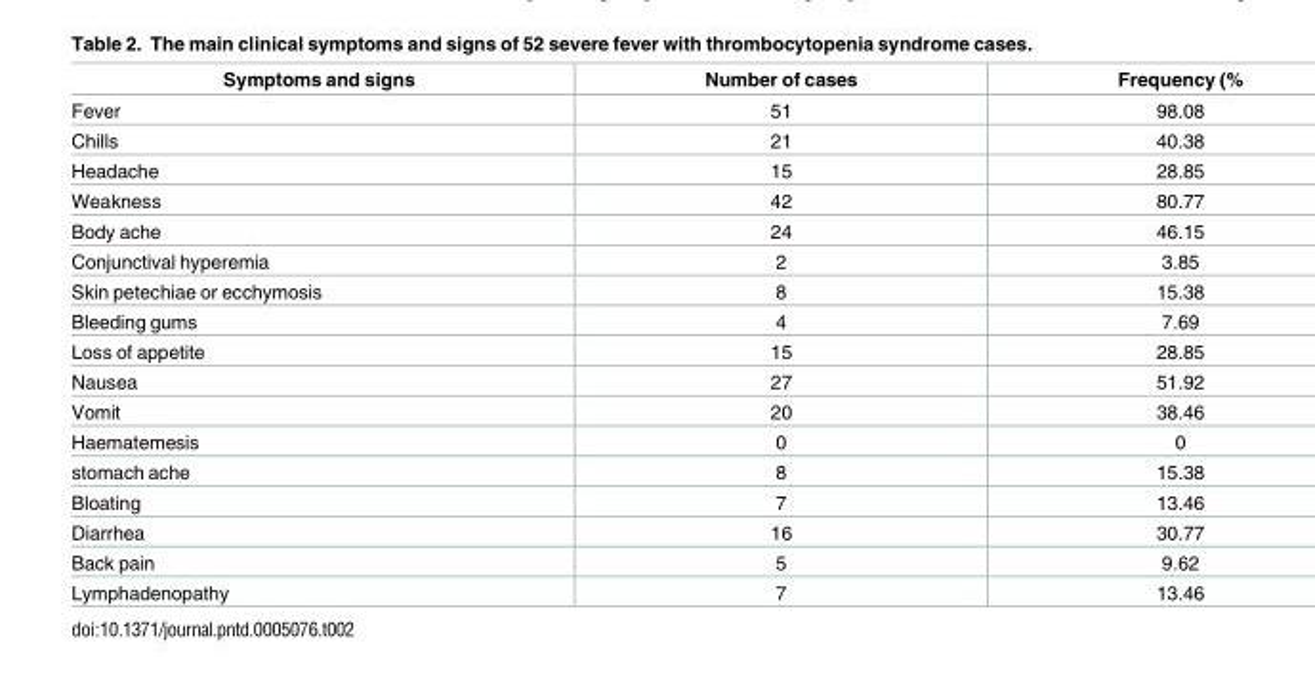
<table><thead><tr><td>Symptoms and signs</td><td>Number of cases</td><td>Frequency (%</td></tr></thead><tbody><tr><td>Fever</td><td>51</td><td>98.08</td></tr><tr><td>Chills</td><td>21</td><td>40.38</td></tr><tr><td>Headache</td><td>15</td><td>28.85</td></tr><tr><td>Weakness</td><td>42</td><td>80.77</td></tr><tr><td>Body ache</td><td>24</td><td>46.15</td></tr><tr><td>Conjunctival hyperemia</td><td>2</td><td>3.85</td></tr><tr><td>Skin petechiae or ecchymosis</td><td>8</td><td>15.38</td></tr><tr><td>Bleeding gums</td><td>4</td><td>7.69</td></tr><tr><td>Loss of appetite</td><td>15</td><td>28.85</td></tr><tr><td>Nausea</td><td>27</td><td>51.92</td></tr><tr><td>Vomit</td><td>20</td><td>38.46</td></tr><tr><td>Haematemesis</td><td>0</td><td>0</td></tr><tr><td>stomach ache</td><td>8</td><td>15.38</td></tr><tr><td>Bloating</td><td>7</td><td>13.46</td></tr><tr><td>Diarrhea</td><td>16</td><td>30.77</td></tr><tr><td>Back pain</td><td>5</td><td>9.62</td></tr><tr><td>Lymphadenopathy</td><td>7</td><td>13.46</td></tr></tbody></table>